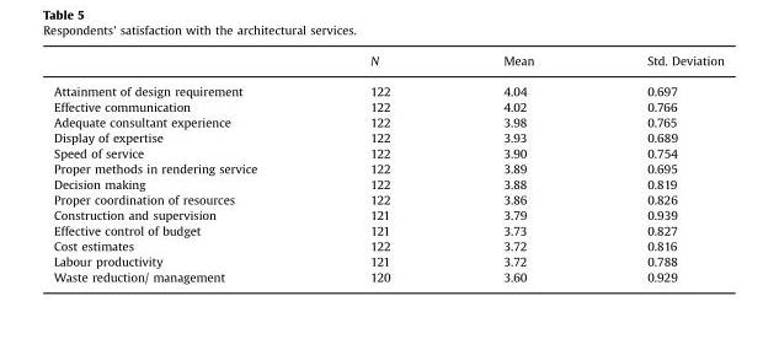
<table><thead><tr><td></td><td>N</td><td>Mean</td><td>Std. Deviation</td></tr></thead><tbody><tr><td>Attainment of design requirement</td><td>122</td><td>4.04</td><td>0.697</td></tr><tr><td>Effective communication</td><td>122</td><td>4.02</td><td>0.766</td></tr><tr><td>Adequate consultant experience</td><td>122</td><td>3.98</td><td>0.765</td></tr><tr><td>Display of expertise</td><td>122</td><td>3.93</td><td>0.689</td></tr><tr><td>Speed of service</td><td>122</td><td>3.90</td><td>0.754</td></tr><tr><td>Proper methods in rendering service</td><td>122</td><td>3.89</td><td>0.695</td></tr><tr><td>Decision making</td><td>122</td><td>3.88</td><td>0.819</td></tr><tr><td>Proper coordination of resources</td><td>122</td><td>3.86</td><td>0.826</td></tr><tr><td>Construction and supervision</td><td>121</td><td>3.79</td><td>0.939</td></tr><tr><td>Effective control of budget</td><td>121</td><td>3.73</td><td>0.827</td></tr><tr><td>Cost estimates</td><td>122</td><td>3.72</td><td>0.816</td></tr><tr><td>Labour productivity</td><td>121</td><td>3.72</td><td>0.788</td></tr><tr><td>Waste reduction/ management</td><td>120</td><td>3.60</td><td>0.929</td></tr></tbody></table>